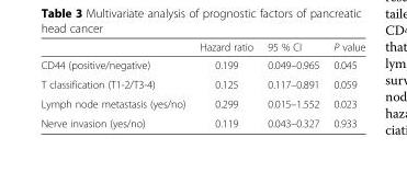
<table><thead><tr><td></td><td>Hazard ratio</td><td>95 % CI</td><td>P value</td></tr></thead><tbody><tr><td>CD44 (positive/negative)</td><td>0.199</td><td>0.049–0.965</td><td>0.045</td></tr><tr><td>T classification (T1-2/T3-4)</td><td>0.125</td><td>0.117–0.891</td><td>0.059</td></tr><tr><td>Lymph node metastasis (yes/no)</td><td>0.299</td><td>0.015–1.552</td><td>0.023</td></tr><tr><td>Nerve invasion (yes/no)</td><td>0.119</td><td>0.043–0.327</td><td>0.933</td></tr></tbody></table>